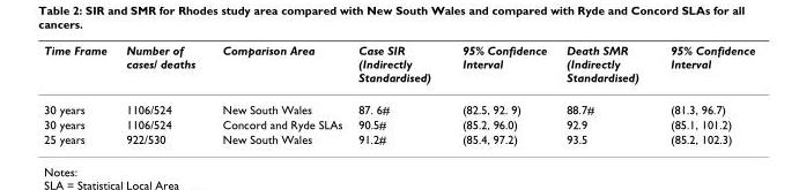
<table><thead><tr><td>Time Frame</td><td>Number of cases/ deaths</td><td>Comparison Area</td><td>Case SIR (Indirectly Standardised)</td><td>95% Confidence Interval</td><td>Death SMR (Indirectly Standardised)</td><td>95% Confidence Interval</td></tr></thead><tbody><tr><td>30 years</td><td>1106/524</td><td>New South Wales</td><td>87. 6#</td><td>(82.5, 92. 9)</td><td>88.7#</td><td>(81.3, 96.7)</td></tr><tr><td>30 years</td><td>1106/524</td><td>Concord and Ryde SLAs</td><td>90.5#</td><td>(85.2, 96.0)</td><td>92.9</td><td>(85.1, 101.2)</td></tr><tr><td>25 years</td><td>922/530</td><td>New South Wales</td><td>91.2#</td><td>(85.4, 97.2)</td><td>93.5</td><td>(85.2, 102.3)</td></tr></tbody></table>